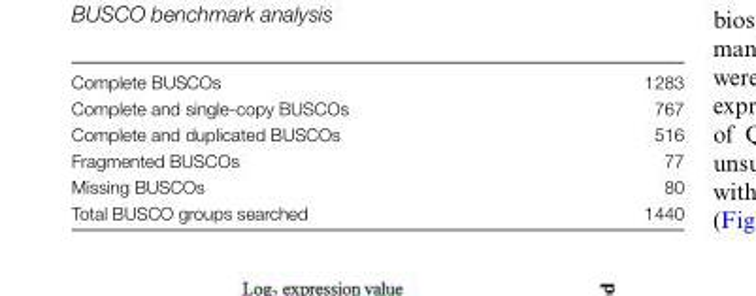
<table><tbody><tr><td>Complete BUSCOs</td><td>1283</td></tr><tr><td>Complete and single-copy BUSCOs</td><td>767</td></tr><tr><td>Complete and duplicated BUSCOs</td><td>516</td></tr><tr><td>Fragmented BUSCOs</td><td>77</td></tr><tr><td>Missing BUSCOs</td><td>80</td></tr><tr><td>Total BUSCO groups searched</td><td>1440</td></tr></tbody></table>